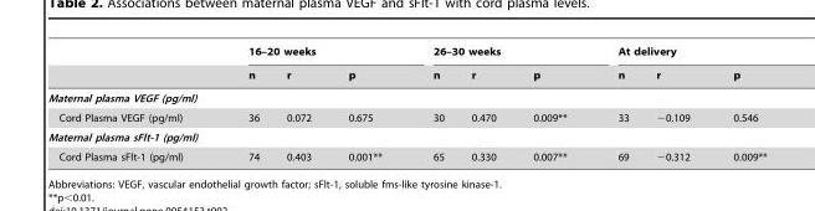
<table><thead><tr><td rowspan="2"></td><td colspan="3">16–20 weeks</td><td colspan="3">26–30 weeks</td><td colspan="3">At delivery</td></tr><tr><td>n</td><td>r</td><td>p</td><td>n</td><td>r</td><td>p</td><td>n</td><td>r</td><td>p</td></tr></thead><tbody><tr><td colspan="10">Maternal plasma VEGF (pg/ml)</td></tr><tr><td>Cord Plasma VEGF (pg/ml)</td><td>36</td><td>0.072</td><td>0.675</td><td>30</td><td>0.470</td><td>0.009**</td><td>33</td><td>−0.109</td><td>0.546</td></tr><tr><td colspan="10">Maternal plasma sFlt-1 (pg/ml)</td></tr><tr><td>Cord Plasma sFlt-1 (pg/ml)</td><td>74</td><td>0.403</td><td>0.001**</td><td>65</td><td>0.330</td><td>0.007**</td><td>69</td><td>−0.312</td><td>0.009**</td></tr></tbody></table>